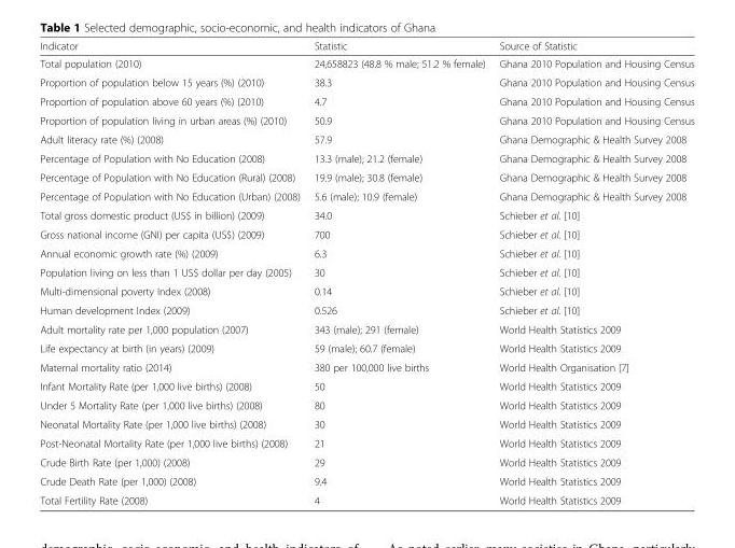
<table><thead><tr><td>Indicator</td><td>Statistic</td><td>Source of Statistic</td></tr></thead><tbody><tr><td>Total population (2010)</td><td>24,658823 (48.8 % male; 51.2 % female)</td><td>Ghana 2010 Population and Housing Census</td></tr><tr><td>Proportion of population below 15 years (%) (2010)</td><td>38.3</td><td>Ghana 2010 Population and Housing Census</td></tr><tr><td>Proportion of population above 60 years (%) (2010)</td><td>4.7</td><td>Ghana 2010 Population and Housing Census</td></tr><tr><td>Proportion of population living in urban areas (%) (2010)</td><td>50.9</td><td>Ghana 2010 Population and Housing Census</td></tr><tr><td>Adult literacy rate (%) (2008)</td><td>57.9</td><td>Ghana Demographic &amp; Health Survey 2008</td></tr><tr><td>Percentage of Population with No Education (2008)</td><td>13.3 (male); 21.2 (female)</td><td>Ghana Demographic &amp; Health Survey 2008</td></tr><tr><td>Percentage of Population with No Education (Rural) (2008)</td><td>19.9 (male); 30.8 (female)</td><td>Ghana Demographic &amp; Health Survey 2008</td></tr><tr><td>Percentage of Population with No Education (Urban) (2008)</td><td>5.6 (male); 10.9 (female)</td><td>Ghana Demographic &amp; Health Survey 2008</td></tr><tr><td>Total gross domestic product (US$ in billion) (2009)</td><td>34.0</td><td>Schieber et al. [10]</td></tr><tr><td>Gross national income (GNI) per capita (US$) (2009)</td><td>700</td><td>Schieber et al. [10]</td></tr><tr><td>Annual economic growth rate (%) (2009)</td><td>6.3</td><td>Schieber et al. [10]</td></tr><tr><td>Population living on less than 1 US$ dollar per day (2005)</td><td>30</td><td>Schieber et al. [10]</td></tr><tr><td>Multi-dimensional poverty Index (2008)</td><td>0.14</td><td>Schieber et al. [10]</td></tr><tr><td>Human development Index (2009)</td><td>0.526</td><td>Schieber et al. [10]</td></tr><tr><td>Adult mortality rate per 1,000 population (2007)</td><td>343 (male); 291 (female)</td><td>World Health Statistics 2009</td></tr><tr><td>Life expectancy at birth (in years) (2009)</td><td>59 (male); 60.7 (female)</td><td>World Health Statistics 2009</td></tr><tr><td>Maternal mortality ratio (2014)</td><td>380 per 100,000 live births</td><td>World Health Organisation [7]</td></tr><tr><td>Infant Mortality Rate (per 1,000 live births) (2008)</td><td>50</td><td>World Health Statistics 2009</td></tr><tr><td>Under 5 Mortality Rate (per 1,000 live births) (2008)</td><td>80</td><td>World Health Statistics 2009</td></tr><tr><td>Neonatal Mortality Rate (per 1,000 live births) (2008)</td><td>30</td><td>World Health Statistics 2009</td></tr><tr><td>Post-Neonatal Mortality Rate (per 1,000 live births) (2008)</td><td>21</td><td>World Health Statistics 2009</td></tr><tr><td>Crude Birth Rate (per 1,000) (2008)</td><td>29</td><td>World Health Statistics 2009</td></tr><tr><td>Crude Death Rate (per 1,000) (2008)</td><td>9.4</td><td>World Health Statistics 2009</td></tr><tr><td>Total Fertility Rate (2008)</td><td>4</td><td>World Health Statistics 2009</td></tr></tbody></table>